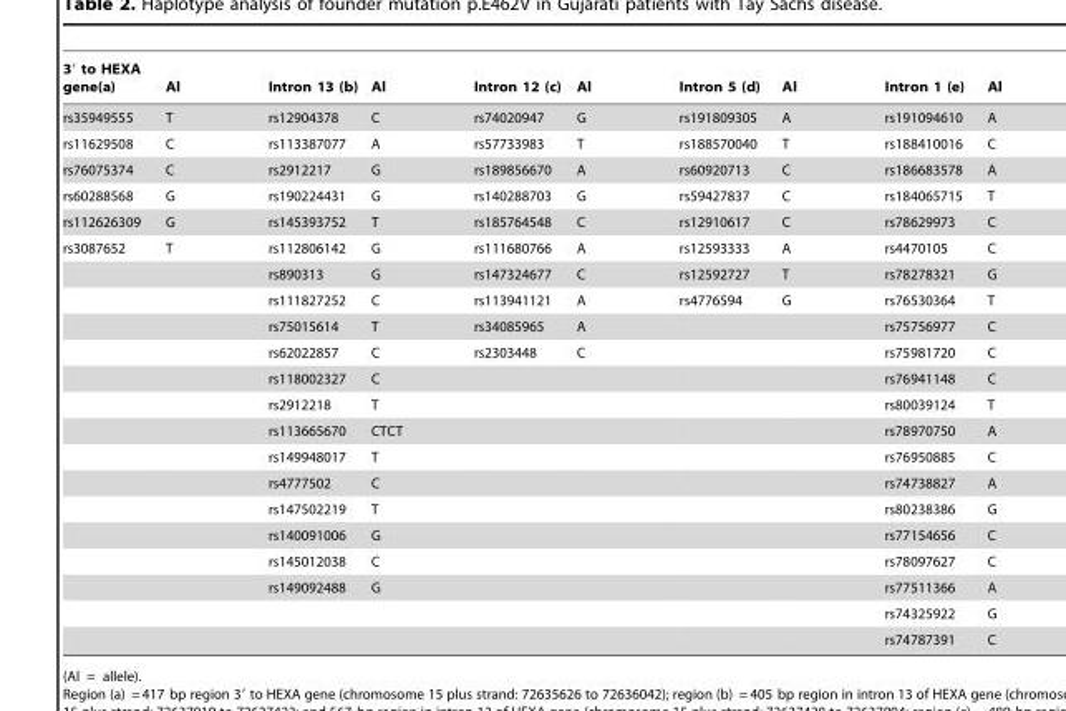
<table><thead><tr><td>3′ to HEXA gene(a)</td><td>Al</td><td>Intron 13 (b)</td><td>Al</td><td>Intron 12 (c)</td><td>Al</td><td>Intron 5 (d)</td><td>Al</td><td>Intron 1 (e)</td><td>Al</td></tr></thead><tbody><tr><td>rs35949555</td><td>T</td><td>rs12904378</td><td>C</td><td>rs74020947</td><td>G</td><td>rs191809305</td><td>A</td><td>rs191094610</td><td>A</td></tr><tr><td>rs11629508</td><td>C</td><td>rs113387077</td><td>A</td><td>rs57733983</td><td>T</td><td>rs188570040</td><td>T</td><td>rs188410016</td><td>C</td></tr><tr><td>rs76075374</td><td>C</td><td>rs2912217</td><td>G</td><td>rs189856670</td><td>A</td><td>rs60920713</td><td>C</td><td>rs186683578</td><td>A</td></tr><tr><td>rs60288568</td><td>G</td><td>rs190224431</td><td>G</td><td>rs140288703</td><td>G</td><td>rs59427837</td><td>C</td><td>rs184065715</td><td>T</td></tr><tr><td>rs112626309</td><td>G</td><td>rs145393752</td><td>T</td><td>rs185764548</td><td>C</td><td>rs12910617</td><td>C</td><td>rs78629973</td><td>C</td></tr><tr><td rowspan="16">rs3087652</td><td>T</td><td>rs112806142</td><td>G</td><td>rs111680766</td><td>A</td><td>rs12593333</td><td>A</td><td>rs4470105</td><td>C</td></tr><tr><td></td><td>rs890313</td><td>G</td><td>rs147324677</td><td>C</td><td>rs12592727</td><td>T</td><td>rs78278321</td><td>G</td></tr><tr><td></td><td>rs111827252</td><td>C</td><td>rs113941121</td><td>A</td><td>rs4776594</td><td>G</td><td>rs76530364</td><td>T</td></tr><tr><td></td><td>rs75015614</td><td>T</td><td>rs34085965</td><td>A</td><td></td><td></td><td>rs75756977</td><td>C</td></tr><tr><td></td><td>rs62022857</td><td>C</td><td>rs2303448</td><td>C</td><td></td><td></td><td>rs75981720</td><td>C</td></tr><tr><td></td><td>rs118002327</td><td>C</td><td></td><td></td><td></td><td></td><td>rs76941148</td><td>C</td></tr><tr><td></td><td>rs2912218</td><td>T</td><td></td><td></td><td></td><td></td><td>rs80039124</td><td>T</td></tr><tr><td></td><td>rs113665670</td><td>CTCT</td><td></td><td></td><td></td><td></td><td>rs78970750</td><td>A</td></tr><tr><td></td><td>rs149948017</td><td>T</td><td></td><td></td><td></td><td></td><td>rs76950885</td><td>C</td></tr><tr><td></td><td>rs4777502</td><td>C</td><td></td><td></td><td></td><td></td><td>rs74738827</td><td>A</td></tr><tr><td></td><td>rs147502219</td><td>T</td><td></td><td></td><td></td><td></td><td>rs80238386</td><td>G</td></tr><tr><td></td><td>rs140091006</td><td>G</td><td></td><td></td><td></td><td></td><td>rs77154656</td><td>C</td></tr><tr><td></td><td>rs145012038</td><td>C</td><td></td><td></td><td></td><td></td><td>rs78097627</td><td>C</td></tr><tr><td></td><td>rs149092488</td><td>G</td><td></td><td></td><td></td><td></td><td>rs77511366</td><td>A</td></tr><tr><td></td><td></td><td></td><td></td><td></td><td></td><td></td><td>rs74325922</td><td>G</td></tr><tr><td></td><td></td><td></td><td></td><td></td><td></td><td></td><td>rs74787391</td><td>C</td></tr></tbody></table>